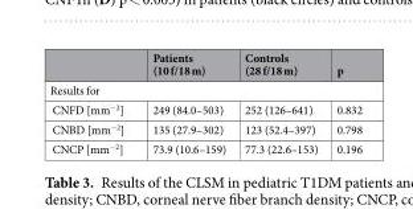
<table><thead><tr><td></td><td>Patients (10 f/18 m)</td><td>Controls (28 f/18 m)</td><td>p</td></tr></thead><tbody><tr><td colspan="4">Results for</td></tr><tr><td>CNFD [mm<sup>−2</sup>]</td><td>249 (84.0–503)</td><td>252 (126–641)</td><td>0.832</td></tr><tr><td>CNBD [mm<sup>−2</sup>]</td><td>135 (27.9–302)</td><td>123 (52.4–397)</td><td>0.798</td></tr><tr><td>CNCP [mm<sup>−2</sup>]</td><td>73.9 (10.6–159)</td><td>77.3 (22.6–153)</td><td>0.196</td></tr></tbody></table>